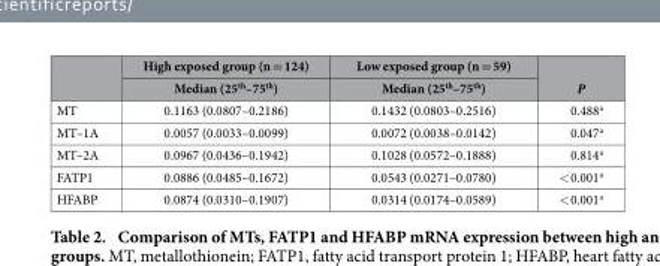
<table><thead><tr><td rowspan="2"></td><td rowspan="2">High exposed group (n = 124) Median (25<sup>th</sup>–75<sup>th</sup>)</td><td rowspan="2">Low exposed group (n = 59) Median (25<sup>th</sup>–75<sup>th</sup>)</td><td rowspan="2">P</td></tr><tr></tr></thead><tbody><tr><td>MT</td><td>0.1163 (0.0807–0.2186)</td><td>0.1432 (0.0803–0.2516)</td><td>0.488<sup>a</sup></td></tr><tr><td>MT–1A</td><td>0.0057 (0.0033–0.0099)</td><td>0.0072 (0.0038–0.0142)</td><td>0.047<sup>a</sup></td></tr><tr><td>MT–2A</td><td>0.0967 (0.0436–0.1942)</td><td>0.1028 (0.0572–0.1888)</td><td>0.814<sup>a</sup></td></tr><tr><td>FATP1</td><td>0.0886 (0.0485–0.1672)</td><td>0.0543 (0.0271–0.0780)</td><td>&lt; 0.001<sup>a</sup></td></tr><tr><td>HFABP</td><td>0.0874 (0.0310–0.1907)</td><td>0.0314 (0.0174–0.0589)</td><td>&lt; 0.001<sup>a</sup></td></tr></tbody></table>